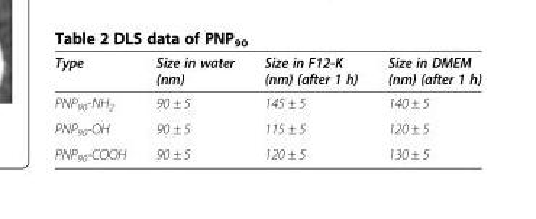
<table><thead><tr><td>Type</td><td>Size in water (nm)</td><td>Size in F12-K (nm) (after 1 h)</td><td>Size in DMEM (nm) (after 1 h)</td></tr></thead><tbody><tr><td>PNP<sub>90</sub>-NH<sub>2</sub></td><td>90 ± 5</td><td>145 ± 5</td><td>140 ± 5</td></tr><tr><td>PNP<sub>90</sub>-OH</td><td>90 ± 5</td><td>115 ± 5</td><td>120 ± 5</td></tr><tr><td>PNP<sub>90</sub>-COOH</td><td>90 ± 5</td><td>120 ± 5</td><td>130 ± 5</td></tr></tbody></table>